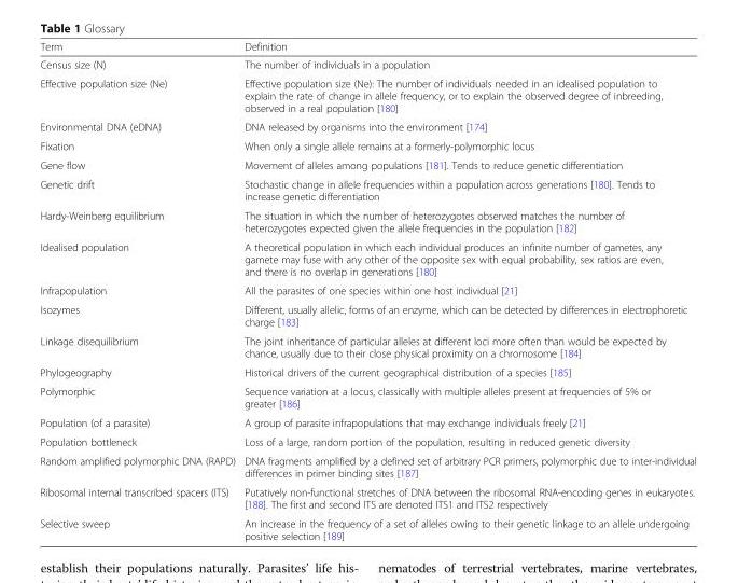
<table><thead><tr><td>Term</td><td>Definition</td></tr></thead><tbody><tr><td>Census size (N)</td><td>The number of individuals in a population</td></tr><tr><td>Effective population size (Ne)</td><td>Effective population size (Ne): The number of individuals needed in an idealised population to explain the rate of change in allele frequency, or to explain the observed degree of inbreeding, observed in a real population [180]</td></tr><tr><td>Environmental DNA (eDNA)</td><td>DNA released by organisms into the environment [174]</td></tr><tr><td>Fixation</td><td>When only a single allele remains at a formerly-polymorphic locus</td></tr><tr><td>Gene flow</td><td>Movement of alleles among populations [181]. Tends to reduce genetic differentiation</td></tr><tr><td>Genetic drift</td><td>Stochastic change in allele frequencies within a population across generations [180]. Tends to increase genetic differentiation</td></tr><tr><td>Hardy-Weinberg equilibrium</td><td>The situation in which the number of heterozygotes observed matches the number of heterozygotes expected given the allele frequencies in the population [182]</td></tr><tr><td>Idealised population</td><td>A theoretical population in which each individual produces an infinite number of gametes, any gamete may fuse with any other of the opposite sex with equal probability, sex ratios are even, and there is no overlap in generations [180]</td></tr><tr><td>Infrapopulation</td><td>All the parasites of one species within one host individual [21]</td></tr><tr><td>Isozymes</td><td>Different, usually allelic, forms of an enzyme, which can be detected by differences in electrophoretic charge [183]</td></tr><tr><td>Linkage disequilibrium</td><td>The joint inheritance of particular alleles at different loci more often than would be expected by chance, usually due to their close physical proximity on a chromosome [184]</td></tr><tr><td>Phylogeography</td><td>Historical drivers of the current geographical distribution of a species [185]</td></tr><tr><td>Polymorphic</td><td>Sequence variation at a locus, classically with multiple alleles present at frequencies of 5% or greater [186]</td></tr><tr><td>Population (of a parasite)</td><td>A group of parasite infrapopulations that may exchange individuals freely [21]</td></tr><tr><td>Population bottleneck</td><td>Loss of a large, random portion of the population, resulting in reduced genetic diversity</td></tr><tr><td>Random amplified polymorphic DNA (RAPD)</td><td>DNA fragments amplified by a defined set of arbitrary PCR primers, polymorphic due to inter-individual differences in primer binding sites [187]</td></tr><tr><td>Ribosomal internal transcribed spacers (ITS)</td><td>Putatively non-functional stretches of DNA between the ribosomal RNA-encoding genes in eukaryotes. [188]. The first and second ITS are denoted ITS1 and ITS2 respectively</td></tr><tr><td>Selective sweep</td><td>An increase in the frequency of a set of alleles owing to their genetic linkage to an allele undergoing positive selection [189]</td></tr></tbody></table>